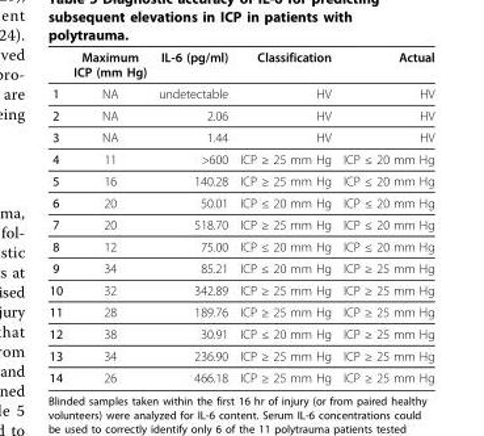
<table><thead><tr><td></td><td>Maximum ICP (mm Hg)</td><td>IL-6 (pg/ml)</td><td>Classification</td><td>Actual</td></tr></thead><tbody><tr><td>1</td><td>NA</td><td>undetectable</td><td>HV</td><td>HV</td></tr><tr><td>2</td><td>NA</td><td>2.06</td><td>HV</td><td>HV</td></tr><tr><td>3</td><td>NA</td><td>1.44</td><td>HV</td><td>HV</td></tr><tr><td>4</td><td>11</td><td>&gt;600</td><td>ICP ≥ 25 mm Hg</td><td>ICP ≤ 20 mm Hg</td></tr><tr><td>5</td><td>16</td><td>140.28</td><td>ICP ≥ 25 mm Hg</td><td>ICP ≤ 20 mm Hg</td></tr><tr><td>6</td><td>20</td><td>50.01</td><td>ICP ≤ 20 mm Hg</td><td>ICP ≤ 20 mm Hg</td></tr><tr><td>7</td><td>20</td><td>518.70</td><td>ICP ≥ 25 mm Hg</td><td>ICP ≤ 20 mm Hg</td></tr><tr><td>8</td><td>12</td><td>75.00</td><td>ICP ≤ 20 mm Hg</td><td>ICP ≤ 20 mm Hg</td></tr><tr><td>9</td><td>34</td><td>85.21</td><td>ICP ≤ 20 mm Hg</td><td>ICP ≥ 25 mm Hg</td></tr><tr><td>10</td><td>32</td><td>342.89</td><td>ICP ≥ 25 mm Hg</td><td>ICP ≥ 25 mm Hg</td></tr><tr><td>11</td><td>28</td><td>189.76</td><td>ICP ≥ 25 mm Hg</td><td>ICP ≥ 25 mm Hg</td></tr><tr><td>12</td><td>38</td><td>30.91</td><td>ICP ≤ 20 mm Hg</td><td>ICP ≥ 25 mm Hg</td></tr><tr><td>13</td><td>34</td><td>236.90</td><td>ICP ≥ 25 mm Hg</td><td>ICP ≥ 25 mm Hg</td></tr><tr><td>14</td><td>26</td><td>466.18</td><td>ICP ≥ 25 mm Hg</td><td>ICP ≥ 25 mm Hg</td></tr></tbody></table>